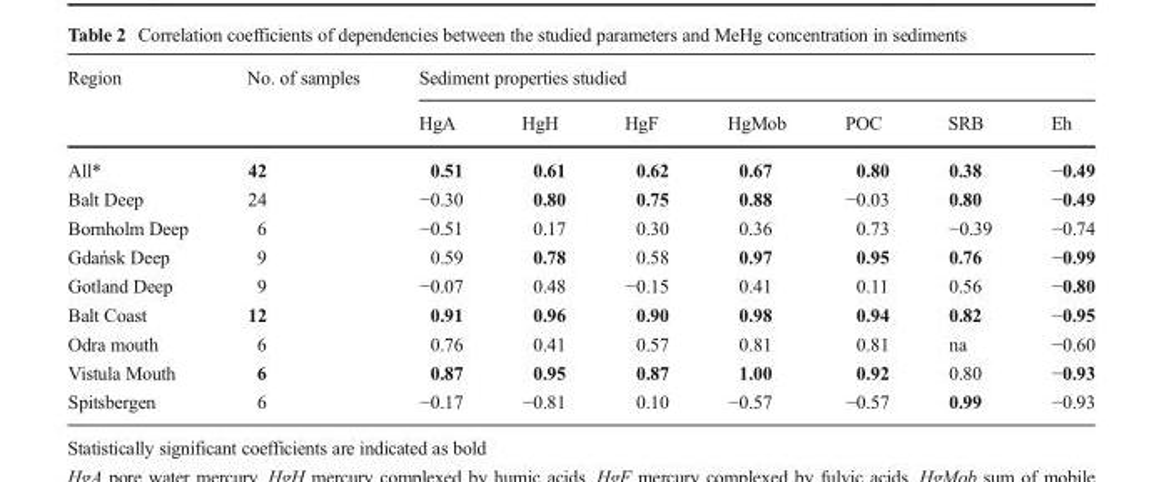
<table><thead><tr><td rowspan="2">Region</td><td rowspan="2">No. of samples</td><td colspan="7">Sediment properties studied</td></tr><tr><td>HgA</td><td>HgH</td><td>HgF</td><td>HgMob</td><td>POC</td><td>SRB</td><td>Eh</td></tr></thead><tbody><tr><td>All*</td><td>42</td><td>0.51</td><td>0.61</td><td>0.62</td><td>0.67</td><td>0.80</td><td>0.38</td><td>−0.49</td></tr><tr><td>Balt Deep</td><td>24</td><td>−0.30</td><td>0.80</td><td>0.75</td><td>0.88</td><td>−0.03</td><td>0.80</td><td>−0.49</td></tr><tr><td>Bornholm Deep</td><td>6</td><td>−0.51</td><td>0.17</td><td>0.30</td><td>0.36</td><td>0.73</td><td>−0.39</td><td>−0.74</td></tr><tr><td>Gdańsk Deep</td><td>9</td><td>0.59</td><td>0.78</td><td>0.58</td><td>0.97</td><td>0.95</td><td>0.76</td><td>−0.99</td></tr><tr><td>Gotland Deep</td><td>9</td><td>−0.07</td><td>0.48</td><td>−0.15</td><td>0.41</td><td>0.11</td><td>0.56</td><td>−0.80</td></tr><tr><td>Balt Coast</td><td>12</td><td>0.91</td><td>0.96</td><td>0.90</td><td>0.98</td><td>0.94</td><td>0.82</td><td>−0.95</td></tr><tr><td>Odra mouth</td><td>6</td><td>0.76</td><td>0.41</td><td>0.57</td><td>0.81</td><td>0.81</td><td>na</td><td>−0.60</td></tr><tr><td>Vistula Mouth</td><td>6</td><td>0.87</td><td>0.95</td><td>0.87</td><td>1.00</td><td>0.92</td><td>0.80</td><td>−0.93</td></tr><tr><td>Spitsbergen</td><td>6</td><td>−0.17</td><td>−0.81</td><td>0.10</td><td>−0.57</td><td>−0.57</td><td>0.99</td><td>−0.93</td></tr></tbody></table>